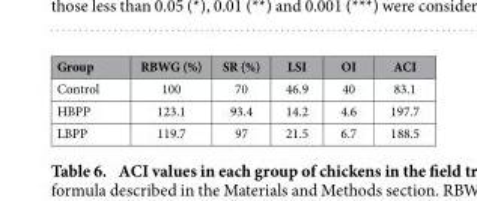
<table><thead><tr><td>Group</td><td>RBWG (%)</td><td>SR (%)</td><td>LSI</td><td>OI</td><td>ACI</td></tr></thead><tbody><tr><td>Control</td><td>100</td><td>70</td><td>46.9</td><td>40</td><td>83.1</td></tr><tr><td>HBPP</td><td>123.1</td><td>93.4</td><td>14.2</td><td>4.6</td><td>197.7</td></tr><tr><td>LBPP</td><td>119.7</td><td>97</td><td>21.5</td><td>6.7</td><td>188.5</td></tr></tbody></table>